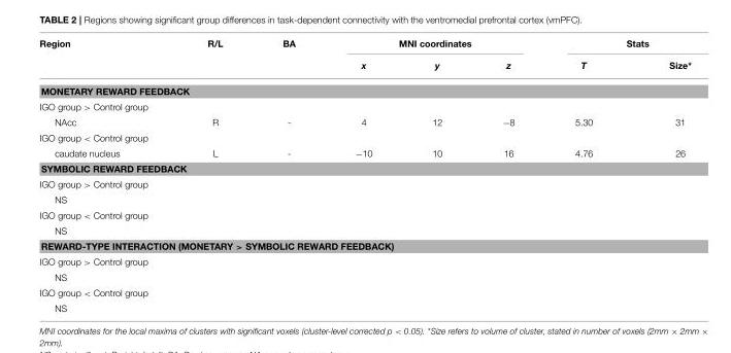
<table><thead><tr><td rowspan="2">Region</td><td rowspan="2">R/L</td><td rowspan="2">BA</td><td colspan="3">MNI coordinates</td><td colspan="2">Stats</td></tr><tr><td>x</td><td>y</td><td>z</td><td>T</td><td>Size*</td></tr></thead><tbody><tr><td colspan="8">MONETARY REWARD FEEDBACK</td></tr><tr><td colspan="8">IGO group &gt; Control group</td></tr><tr><td>NAcc</td><td>R</td><td>-</td><td>4</td><td>12</td><td>−8</td><td>5.30</td><td>31</td></tr><tr><td colspan="8">IGO group &lt; Control group</td></tr><tr><td>caudate nucleus</td><td>L</td><td>-</td><td>−10</td><td>10</td><td>16</td><td>4.76</td><td>26</td></tr><tr><td colspan="8">SYMBOLIC REWARD FEEDBACK</td></tr><tr><td colspan="8">IGO group &gt; Control group</td></tr><tr><td colspan="8">NS</td></tr><tr><td colspan="8">IGO group &lt; Control group</td></tr><tr><td colspan="8">NS</td></tr><tr><td colspan="8">REWARD-TYPE INTERACTION (MONETARY &gt; SYMBOLIC REWARD FEEDBACK)</td></tr><tr><td colspan="8">IGO group &gt; Control group</td></tr><tr><td colspan="8">NS</td></tr><tr><td colspan="8">IGO group &lt; Control group</td></tr><tr><td>NS</td><td></td><td></td><td></td><td></td><td></td><td></td><td></td></tr></tbody></table>